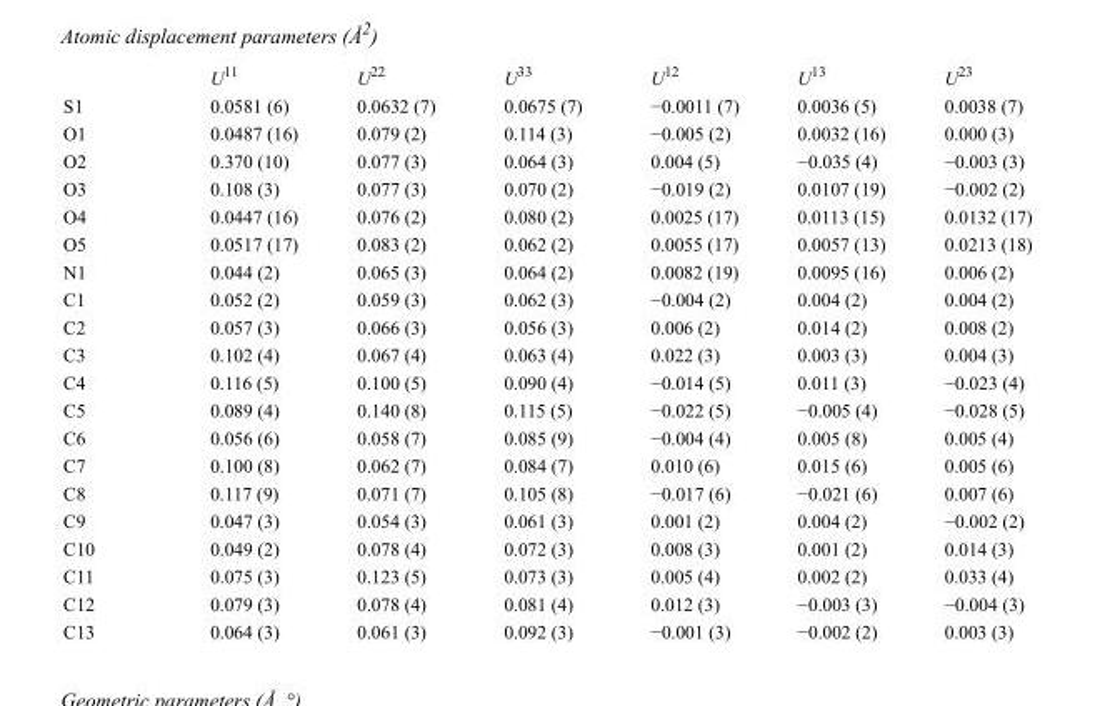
<table><thead><tr><td></td><td>U<sup>11</sup></td><td>U<sup>22</sup></td><td>U<sup>33</sup></td><td>U<sup>12</sup></td><td>U<sup>13</sup></td><td>U<sup>23</sup></td></tr></thead><tbody><tr><td>S1</td><td>0.0581 (6)</td><td>0.0632 (7)</td><td>0.0675 (7)</td><td>−0.0011 (7)</td><td>0.0036 (5)</td><td>0.0038 (7)</td></tr><tr><td>O1</td><td>0.0487 (16)</td><td>0.079 (2)</td><td>0.114 (3)</td><td>−0.005 (2)</td><td>0.0032 (16)</td><td>0.000 (3)</td></tr><tr><td>O2</td><td>0.370 (10)</td><td>0.077 (3)</td><td>0.064 (3)</td><td>0.004 (5)</td><td>−0.035 (4)</td><td>−0.003 (3)</td></tr><tr><td>O3</td><td>0.108 (3)</td><td>0.077 (3)</td><td>0.070 (2)</td><td>−0.019 (2)</td><td>0.0107 (19)</td><td>−0.002 (2)</td></tr><tr><td>O4</td><td>0.0447 (16)</td><td>0.076 (2)</td><td>0.080 (2)</td><td>0.0025 (17)</td><td>0.0113 (15)</td><td>0.0132 (17)</td></tr><tr><td>O5</td><td>0.0517 (17)</td><td>0.083 (2)</td><td>0.062 (2)</td><td>0.0055 (17)</td><td>0.0057 (13)</td><td>0.0213 (18)</td></tr><tr><td>N1</td><td>0.044 (2)</td><td>0.065 (3)</td><td>0.064 (2)</td><td>0.0082 (19)</td><td>0.0095 (16)</td><td>0.006 (2)</td></tr><tr><td>C1</td><td>0.052 (2)</td><td>0.059 (3)</td><td>0.062 (3)</td><td>−0.004 (2)</td><td>0.004 (2)</td><td>0.004 (2)</td></tr><tr><td>C2</td><td>0.057 (3)</td><td>0.066 (3)</td><td>0.056 (3)</td><td>0.006 (2)</td><td>0.014 (2)</td><td>0.008 (2)</td></tr><tr><td>C3</td><td>0.102 (4)</td><td>0.067 (4)</td><td>0.063 (4)</td><td>0.022 (3)</td><td>0.003 (3)</td><td>0.004 (3)</td></tr><tr><td>C4</td><td>0.116 (5)</td><td>0.100 (5)</td><td>0.090 (4)</td><td>−0.014 (5)</td><td>0.011 (3)</td><td>−0.023 (4)</td></tr><tr><td>C5</td><td>0.089 (4)</td><td>0.140 (8)</td><td>0.115 (5)</td><td>−0.022 (5)</td><td>−0.005 (4)</td><td>−0.028 (5)</td></tr><tr><td>C6</td><td>0.056 (6)</td><td>0.058 (7)</td><td>0.085 (9)</td><td>−0.004 (4)</td><td>0.005 (8)</td><td>0.005 (4)</td></tr><tr><td>C7</td><td>0.100 (8)</td><td>0.062 (7)</td><td>0.084 (7)</td><td>0.010 (6)</td><td>0.015 (6)</td><td>0.005 (6)</td></tr><tr><td>C8</td><td>0.117 (9)</td><td>0.071 (7)</td><td>0.105 (8)</td><td>−0.017 (6)</td><td>−0.021 (6)</td><td>0.007 (6)</td></tr><tr><td>C9</td><td>0.047 (3)</td><td>0.054 (3)</td><td>0.061 (3)</td><td>0.001 (2)</td><td>0.004 (2)</td><td>−0.002 (2)</td></tr><tr><td>C10</td><td>0.049 (2)</td><td>0.078 (4)</td><td>0.072 (3)</td><td>0.008 (3)</td><td>0.001 (2)</td><td>0.014 (3)</td></tr><tr><td>C11</td><td>0.075 (3)</td><td>0.123 (5)</td><td>0.073 (3)</td><td>0.005 (4)</td><td>0.002 (2)</td><td>0.033 (4)</td></tr><tr><td>C12</td><td>0.079 (3)</td><td>0.078 (4)</td><td>0.081 (4)</td><td>0.012 (3)</td><td>−0.003 (3)</td><td>−0.004 (3)</td></tr><tr><td>C13</td><td>0.064 (3)</td><td>0.061 (3)</td><td>0.092 (3)</td><td>−0.001 (3)</td><td>−0.002 (2)</td><td>0.003 (3)</td></tr></tbody></table>